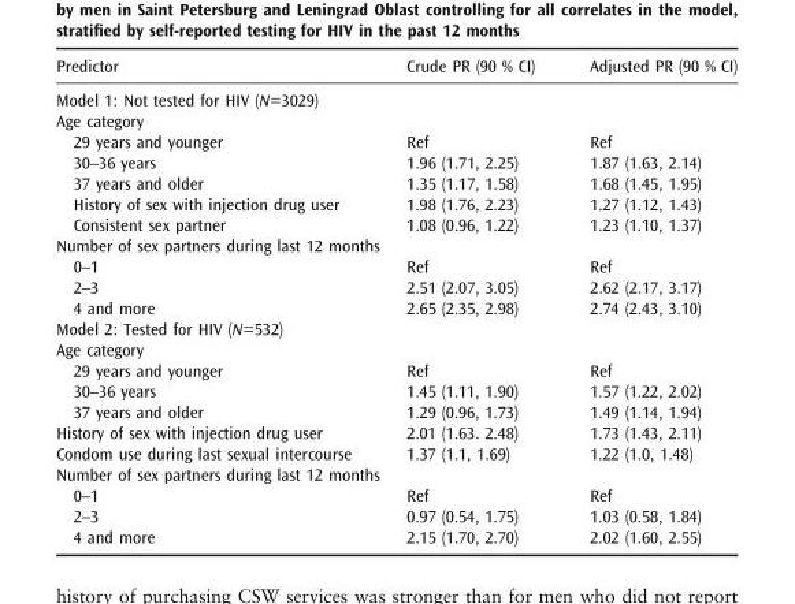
<table><thead><tr><td>Predictor</td><td>Crude PR (90 % CI)</td><td>Adjusted PR (90 % CI)</td></tr></thead><tbody><tr><td colspan="3">Model 1: Not tested for HIV (N=3029)</td></tr><tr><td colspan="3">Age category</td></tr><tr><td>29 years and younger</td><td>Ref</td><td>Ref</td></tr><tr><td>30–36 years</td><td>1.96 (1.71, 2.25)</td><td>1.87 (1.63, 2.14)</td></tr><tr><td>37 years and older</td><td>1.35 (1.17, 1.58)</td><td>1.68 (1.45, 1.95)</td></tr><tr><td>History of sex with injection drug user</td><td>1.98 (1.76, 2.23)</td><td>1.27 (1.12, 1.43)</td></tr><tr><td>Consistent sex partner</td><td>1.08 (0.96, 1.22)</td><td>1.23 (1.10, 1.37)</td></tr><tr><td colspan="3">Number of sex partners during last 12 months</td></tr><tr><td>0–1</td><td>Ref</td><td>Ref</td></tr><tr><td>2–3</td><td>2.51 (2.07, 3.05)</td><td>2.62 (2.17, 3.17)</td></tr><tr><td>4 and more</td><td>2.65 (2.35, 2.98)</td><td>2.74 (2.43, 3.10)</td></tr><tr><td colspan="3">Model 2: Tested for HIV (N=532)</td></tr><tr><td colspan="3">Age category</td></tr><tr><td>29 years and younger</td><td>Ref</td><td>Ref</td></tr><tr><td>30–36 years</td><td>1.45 (1.11, 1.90)</td><td>1.57 (1.22, 2.02)</td></tr><tr><td>37 years and older</td><td>1.29 (0.96, 1.73)</td><td>1.49 (1.14, 1.94)</td></tr><tr><td>History of sex with injection drug user</td><td>2.01 (1.63. 2.48)</td><td>1.73 (1.43, 2.11)</td></tr><tr><td>Condom use during last sexual intercourse</td><td>1.37 (1.1, 1.69)</td><td>1.22 (1.0, 1.48)</td></tr><tr><td colspan="3">Number of sex partners during last 12 months</td></tr><tr><td>0–1</td><td>Ref</td><td>Ref</td></tr><tr><td>2–3</td><td>0.97 (0.54, 1.75)</td><td>1.03 (0.58, 1.84)</td></tr><tr><td>4 and more</td><td>2.15 (1.70, 2.70)</td><td>2.02 (1.60, 2.55)</td></tr></tbody></table>